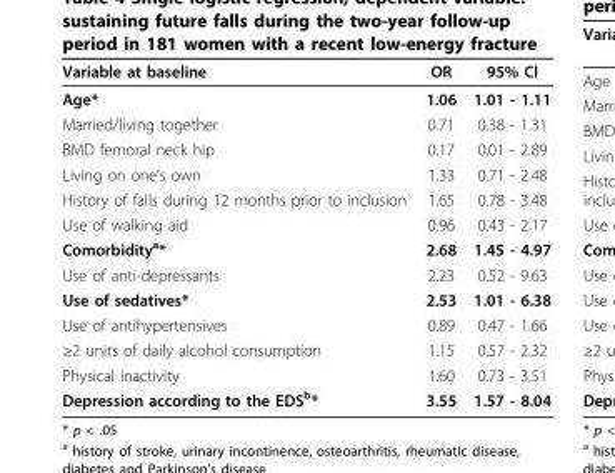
<table><thead><tr><td>Variable at baseline</td><td>OR</td><td>95% CI</td></tr></thead><tbody><tr><td>Age*</td><td>1.06</td><td>1.01 - 1.11</td></tr><tr><td>Married/living together</td><td>0.71</td><td>0.38 - 1.31</td></tr><tr><td>BMD femoral neck hip</td><td>0.17</td><td>0.01 - 2.89</td></tr><tr><td>Living on one’s own</td><td>1.33</td><td>0.71 - 2.48</td></tr><tr><td>History of falls during 12 months prior to inclusion</td><td>1.65</td><td>0.78 - 3.48</td></tr><tr><td>Use of walking aid</td><td>0.96</td><td>0.43 - 2.17</td></tr><tr><td>Comorbidity<sup>a</sup>*</td><td>2.68</td><td>1.45 - 4.97</td></tr><tr><td>Use of anti-depressants</td><td>2.23</td><td>0.52 - 9.63</td></tr><tr><td>Use of sedatives*</td><td>2.53</td><td>1.01 - 6.38</td></tr><tr><td>Use of antihypertensives</td><td>0.89</td><td>0.47 - 1.66</td></tr><tr><td>≥2 units of daily alcohol consumption</td><td>1.15</td><td>0.57 - 2.32</td></tr><tr><td>Physical inactivity</td><td>1.60</td><td>0.73 - 3.51</td></tr><tr><td>Depression according to the EDS<sup>b</sup>*</td><td>3.55</td><td>1.57 - 8.04</td></tr></tbody></table>